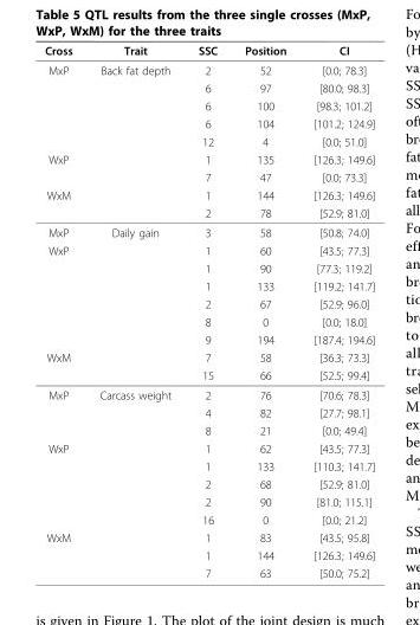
<table><thead><tr><td>Cross</td><td>Trait</td><td>SSC</td><td>Position</td><td>CI</td></tr></thead><tbody><tr><td rowspan="5">MxP</td><td>Back fat depth</td><td>2</td><td>52</td><td>[0.0; 78.3]</td></tr><tr><td></td><td>6</td><td>97</td><td>[80.0; 98.3]</td></tr><tr><td></td><td>6</td><td>100</td><td>[98.3; 101.2]</td></tr><tr><td></td><td>6</td><td>104</td><td>[101.2; 124.9]</td></tr><tr><td></td><td>12</td><td>4</td><td>[0.0; 51.0]</td></tr><tr><td rowspan="2">WxP</td><td></td><td>1</td><td>135</td><td>[126.3; 149.6]</td></tr><tr><td></td><td>7</td><td>47</td><td>[0.0; 73.3]</td></tr><tr><td rowspan="2">WxM</td><td></td><td>1</td><td>144</td><td>[126.3; 149.6]</td></tr><tr><td></td><td>2</td><td>78</td><td>[52.9; 81.0]</td></tr><tr><td>MxP</td><td>Daily gain</td><td>3</td><td>58</td><td>[50.8; 74.0]</td></tr><tr><td rowspan="6">WxP</td><td></td><td>1</td><td>60</td><td>[43.5; 77.3]</td></tr><tr><td></td><td>1</td><td>90</td><td>[77.3; 119.2]</td></tr><tr><td></td><td>1</td><td>133</td><td>[119.2; 141.7]</td></tr><tr><td></td><td>2</td><td>67</td><td>[52.9; 96.0]</td></tr><tr><td></td><td>8</td><td>0</td><td>[0.0; 18.0]</td></tr><tr><td></td><td>9</td><td>194</td><td>[187.4; 194.6]</td></tr><tr><td rowspan="2">WxM</td><td></td><td>7</td><td>58</td><td>[36.3; 73.3]</td></tr><tr><td></td><td>15</td><td>66</td><td>[52.5; 99.4]</td></tr><tr><td rowspan="3">MxP</td><td>Carcass weight</td><td>2</td><td>76</td><td>[70.6; 78.3]</td></tr><tr><td></td><td>4</td><td>82</td><td>[27.7; 98.1]</td></tr><tr><td></td><td>8</td><td>21</td><td>[0.0; 49.4]</td></tr><tr><td rowspan="5">WxP</td><td></td><td>1</td><td>62</td><td>[43.5; 77.3]</td></tr><tr><td></td><td>1</td><td>133</td><td>[110.3; 141.7]</td></tr><tr><td></td><td>2</td><td>68</td><td>[52.9; 81.0]</td></tr><tr><td></td><td>2</td><td>90</td><td>[81.0; 115.1]</td></tr><tr><td></td><td>16</td><td>0</td><td>[0.0; 21.2]</td></tr><tr><td rowspan="3">WxM</td><td></td><td>1</td><td>83</td><td>[43.5; 95.8]</td></tr><tr><td></td><td>1</td><td>144</td><td>[126.3; 149.6]</td></tr><tr><td></td><td>7</td><td>63</td><td>[50.0; 75.2]</td></tr></tbody></table>